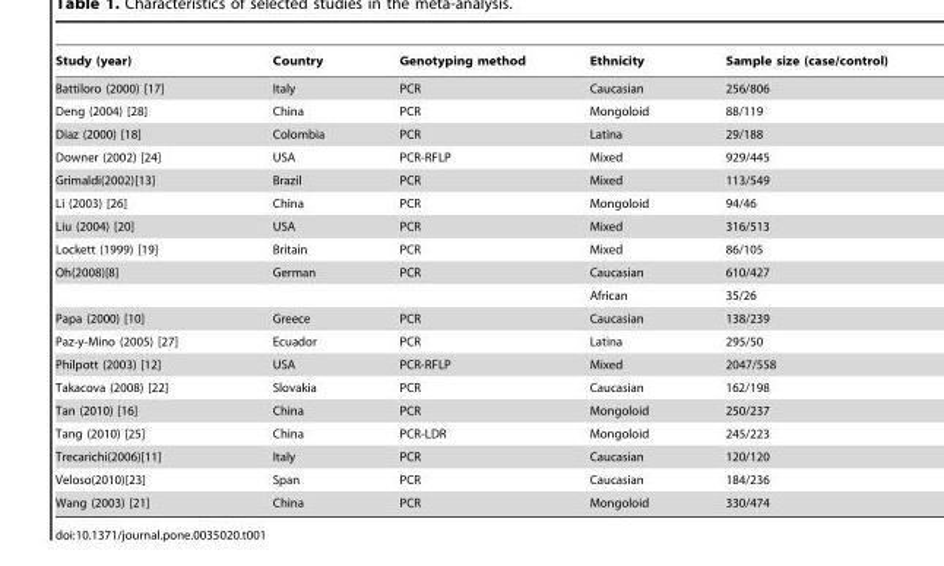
<table><thead><tr><td>Study (year)</td><td>Country</td><td>Genotyping method</td><td>Ethnicity</td><td>Sample size (case/control)</td></tr></thead><tbody><tr><td>Battiloro (2000) [17]</td><td>Italy</td><td>PCR</td><td>Caucasian</td><td>256/806</td></tr><tr><td>Deng (2004) [28]</td><td>China</td><td>PCR</td><td>Mongoloid</td><td>88/119</td></tr><tr><td>Diaz (2000) [18]</td><td>Colombia</td><td>PCR</td><td>Latina</td><td>29/188</td></tr><tr><td>Downer (2002) [24]</td><td>USA</td><td>PCR-RFLP</td><td>Mixed</td><td>929/445</td></tr><tr><td>Grimaldi(2002)[13]</td><td>Brazil</td><td>PCR</td><td>Mixed</td><td>113/549</td></tr><tr><td>Li (2003) [26]</td><td>China</td><td>PCR</td><td>Mongoloid</td><td>94/46</td></tr><tr><td>Liu (2004) [20]</td><td>USA</td><td>PCR</td><td>Mixed</td><td>316/513</td></tr><tr><td>Lockett (1999) [19]</td><td>Britain</td><td>PCR</td><td>Mixed</td><td>86/105</td></tr><tr><td rowspan="2">Oh(2008)[8]</td><td>German</td><td>PCR</td><td>Caucasian</td><td>610/427</td></tr><tr><td></td><td></td><td>African</td><td>35/26</td></tr><tr><td>Papa (2000) [10]</td><td>Greece</td><td>PCR</td><td>Caucasian</td><td>138/239</td></tr><tr><td>Paz-y-Mino (2005) [27]</td><td>Ecuador</td><td>PCR</td><td>Latina</td><td>295/50</td></tr><tr><td>Philpott (2003) [12]</td><td>USA</td><td>PCR-RFLP</td><td>Mixed</td><td>2047/558</td></tr><tr><td>Takacova (2008) [22]</td><td>Slovakia</td><td>PCR</td><td>Caucasian</td><td>162/198</td></tr><tr><td>Tan (2010) [16]</td><td>China</td><td>PCR</td><td>Mongoloid</td><td>250/237</td></tr><tr><td>Tang (2010) [25]</td><td>China</td><td>PCR-LDR</td><td>Mongoloid</td><td>245/223</td></tr><tr><td>Trecarichi(2006)[11]</td><td>Italy</td><td>PCR</td><td>Caucasian</td><td>120/120</td></tr><tr><td>Veloso(2010)[23]</td><td>Span</td><td>PCR</td><td>Caucasian</td><td>184/236</td></tr><tr><td>Wang (2003) [21]</td><td>China</td><td>PCR</td><td>Mongoloid</td><td>330/474</td></tr></tbody></table>